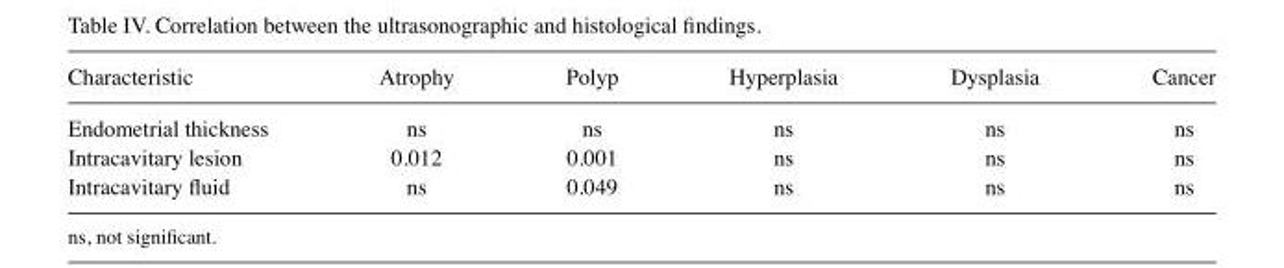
<table><thead><tr><td>Characteristic</td><td>Atrophy</td><td>Polyp</td><td>Hyperplasia</td><td>Dysplasia</td><td>Cancer</td></tr></thead><tbody><tr><td>Endometrial thickness</td><td>ns</td><td>ns</td><td>ns</td><td>ns</td><td>ns</td></tr><tr><td>Intracavitary lesion</td><td>0.012</td><td>0.001</td><td>ns</td><td>ns</td><td>ns</td></tr><tr><td>Intracavitary fluid</td><td>ns</td><td>0.049</td><td>ns</td><td>ns</td><td>ns</td></tr></tbody></table>